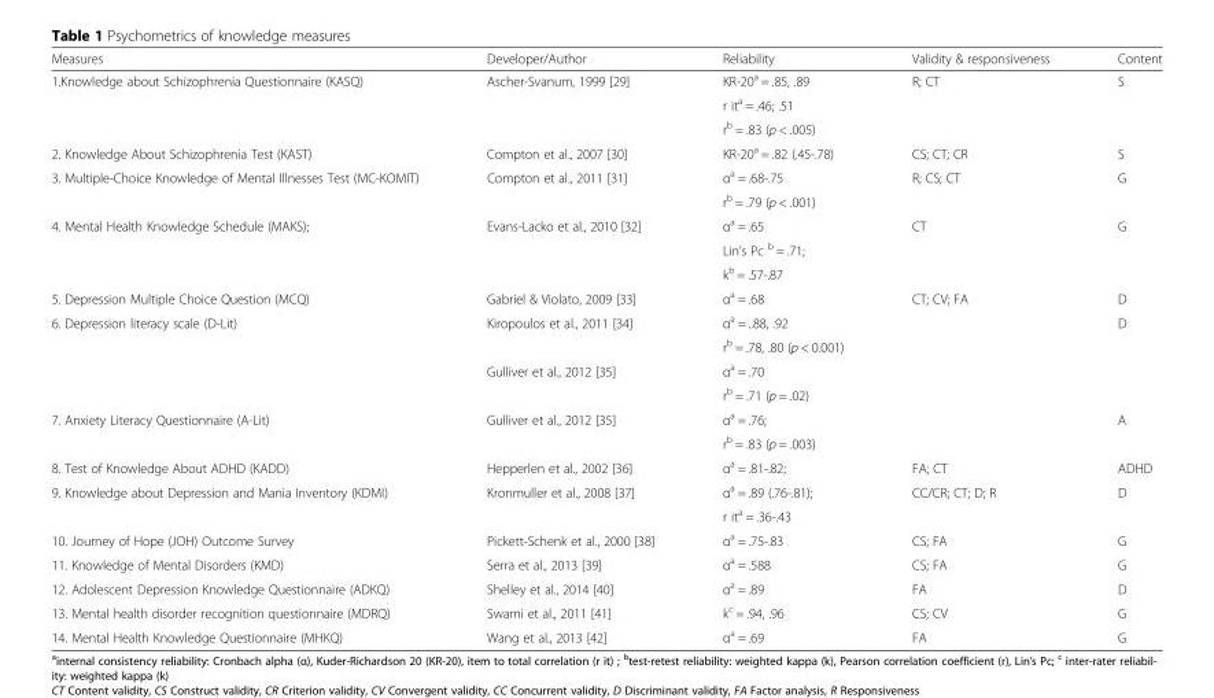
<table><thead><tr><td>Measures</td><td>Developer/Author</td><td>Reliability</td><td>Validity &amp; responsiveness</td><td>Content</td></tr></thead><tbody><tr><td rowspan="3">1.Knowledge about Schizophrenia Questionnaire (KASQ)</td><td rowspan="3">Ascher-Svanum, 1999 [29]</td><td>KR-20<sup>a</sup> = .85, .89</td><td rowspan="3">R; CT</td><td rowspan="3">S</td></tr><tr><td>r it<sup>a</sup> = .46; .51</td></tr><tr><td>r<sup>b</sup> = .83 (p &lt; .005)</td></tr><tr><td>2. Knowledge About Schizophrenia Test (KAST)</td><td>Compton et al., 2007 [30]</td><td>KR-20<sup>a</sup> = .82 (.45-.78)</td><td>CS; CT; CR</td><td>S</td></tr><tr><td rowspan="2">3. Multiple-Choice Knowledge of Mental Illnesses Test (MC-KOMIT)</td><td rowspan="2">Compton et al., 2011 [31]</td><td>α<sup>a</sup> = .68-.75</td><td rowspan="2">R; CS; CT</td><td rowspan="2">G</td></tr><tr><td>r<sup>b</sup> = .79 (p &lt; .001)</td></tr><tr><td rowspan="3">4. Mental Health Knowledge Schedule (MAKS);</td><td rowspan="3">Evans-Lacko et al., 2010 [32]</td><td>α<sup>a</sup> = .65</td><td rowspan="3">CT</td><td rowspan="3">G</td></tr><tr><td>Lin’s Pc <sup>b</sup> = .71;</td></tr><tr><td>k<sup>b</sup> = .57-.87</td></tr><tr><td>5. Depression Multiple Choice Question (MCQ)</td><td>Gabriel &amp; Violato, 2009 [33]</td><td>α<sup>a</sup> = .68</td><td>CT; CV; FA</td><td>D</td></tr><tr><td rowspan="4">6. Depression literacy scale (D-Lit)</td><td rowspan="2">Kiropoulos et al., 2011 [34]</td><td>α<sup>a</sup> = ..88, .92</td><td rowspan="2"></td><td rowspan="4">D</td></tr><tr><td>r<sup>b</sup> = .78, .80 (p &lt; 0.001)</td></tr><tr><td rowspan="2">Gulliver et al., 2012 [35]</td><td>α<sup>a</sup> = .70</td><td rowspan="2"></td></tr><tr><td>r<sup>b</sup> = .71 (p = .02)</td></tr><tr><td rowspan="2">7. Anxiety Literacy Questionnaire (A-Lit)</td><td rowspan="2">Gulliver et al., 2012 [35]</td><td>α<sup>a</sup> = .76;</td><td rowspan="2"></td><td rowspan="2">A</td></tr><tr><td>r<sup>b</sup> = .83 (p = .003)</td></tr><tr><td>8. Test of Knowledge About ADHD (KADD)</td><td>Hepperlen et al., 2002 [36]</td><td>α<sup>a</sup> = .81-.82;</td><td>FA; CT</td><td>ADHD</td></tr><tr><td rowspan="2">9. Knowledge about Depression and Mania Inventory (KDMI)</td><td rowspan="2">Kronmuller et al., 2008 [37]</td><td>α<sup>a</sup> = .89 (.76-.81);</td><td rowspan="2">CC/CR; CT; D; R</td><td rowspan="2">D</td></tr><tr><td>r it<sup>a</sup> = .36-.43</td></tr><tr><td>10. Journey of Hope (JOH) Outcome Survey</td><td>Pickett-Schenk et al., 2000 [38]</td><td>α<sup>a</sup> = .75-.83</td><td>CS; FA</td><td>G</td></tr><tr><td>11. Knowledge of Mental Disorders (KMD)</td><td>Serra et al., 2013 [39]</td><td>α<sup>a</sup> = .588</td><td>CS; FA</td><td>G</td></tr><tr><td>12. Adolescent Depression Knowledge Questionnaire (ADKQ)</td><td>Shelley et al., 2014 [40]</td><td>α<sup>a</sup> = .89</td><td>FA</td><td>D</td></tr><tr><td>13. Mental health disorder recognition questionnaire (MDRQ)</td><td>Swami et al., 2011 [41]</td><td>k<sup>c</sup> = .94, .96</td><td>CS; CV</td><td>G</td></tr><tr><td>14. Mental Health Knowledge Questionnaire (MHKQ)</td><td>Wang et al., 2013 [42]</td><td>α<sup>a</sup> = .69</td><td>FA</td><td>G</td></tr></tbody></table>